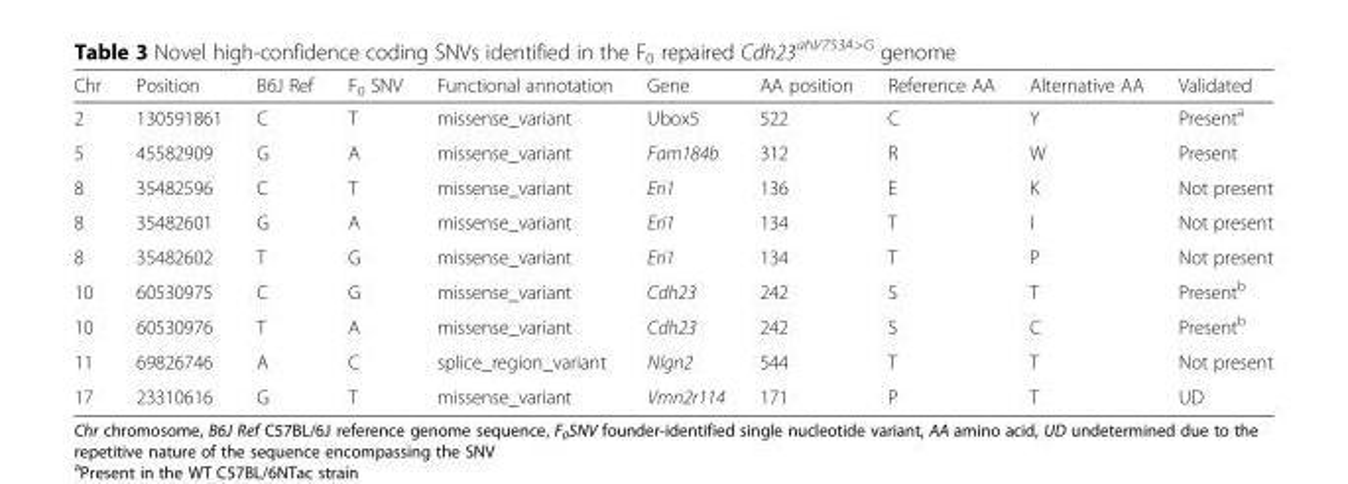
<table><thead><tr><td>Chr</td><td>Position</td><td>B6J Ref</td><td>F<sub>0</sub> SNV</td><td>Functional annotation</td><td>Gene</td><td>AA position</td><td>Reference AA</td><td>Alternative AA</td><td>Validated</td></tr></thead><tbody><tr><td>2</td><td>130591861</td><td>C</td><td>T</td><td>missense_variant</td><td>Ubox5</td><td>522</td><td>C</td><td>Y</td><td>Present<sup>a</sup></td></tr><tr><td>5</td><td>45582909</td><td>G</td><td>A</td><td>missense_variant</td><td>Fam184b</td><td>312</td><td>R</td><td>W</td><td>Present</td></tr><tr><td>8</td><td>35482596</td><td>C</td><td>T</td><td>missense_variant</td><td>Eri1</td><td>136</td><td>E</td><td>K</td><td>Not present</td></tr><tr><td>8</td><td>35482601</td><td>G</td><td>A</td><td>missense_variant</td><td>Eri1</td><td>134</td><td>T</td><td>I</td><td>Not present</td></tr><tr><td>8</td><td>35482602</td><td>T</td><td>G</td><td>missense_variant</td><td>Eri1</td><td>134</td><td>T</td><td>P</td><td>Not present</td></tr><tr><td>10</td><td>60530975</td><td>C</td><td>G</td><td>missense_variant</td><td>Cdh23</td><td>242</td><td>S</td><td>T</td><td>Present<sup>b</sup></td></tr><tr><td>10</td><td>60530976</td><td>T</td><td>A</td><td>missense_variant</td><td>Cdh23</td><td>242</td><td>S</td><td>C</td><td>Present<sup>b</sup></td></tr><tr><td>11</td><td>69826746</td><td>A</td><td>C</td><td>splice_region_variant</td><td>Nlgn2</td><td>544</td><td>T</td><td>T</td><td>Not present</td></tr><tr><td>17</td><td>23310616</td><td>G</td><td>T</td><td>missense_variant</td><td>Vmn2r114</td><td>171</td><td>P</td><td>T</td><td>UD</td></tr></tbody></table>